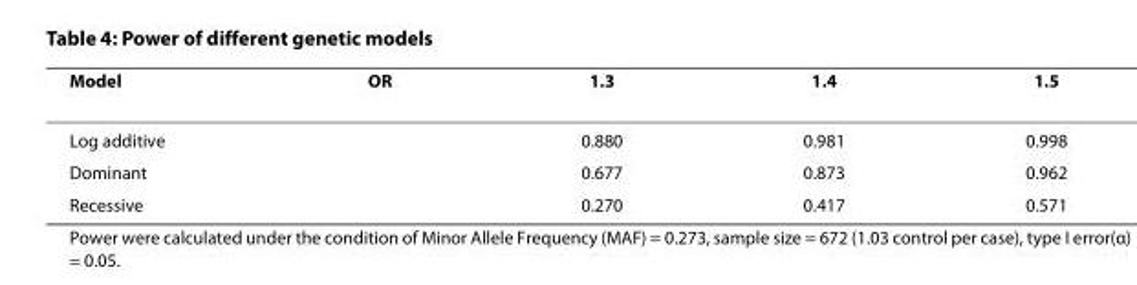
<table><thead><tr><td>Model</td><td>OR</td><td>1.3</td><td>1.4</td><td>1.5</td></tr></thead><tbody><tr><td>Log additive</td><td></td><td>0.880</td><td>0.981</td><td>0.998</td></tr><tr><td>Dominant</td><td></td><td>0.677</td><td>0.873</td><td>0.962</td></tr><tr><td>Recessive</td><td></td><td>0.270</td><td>0.417</td><td>0.571</td></tr></tbody></table>